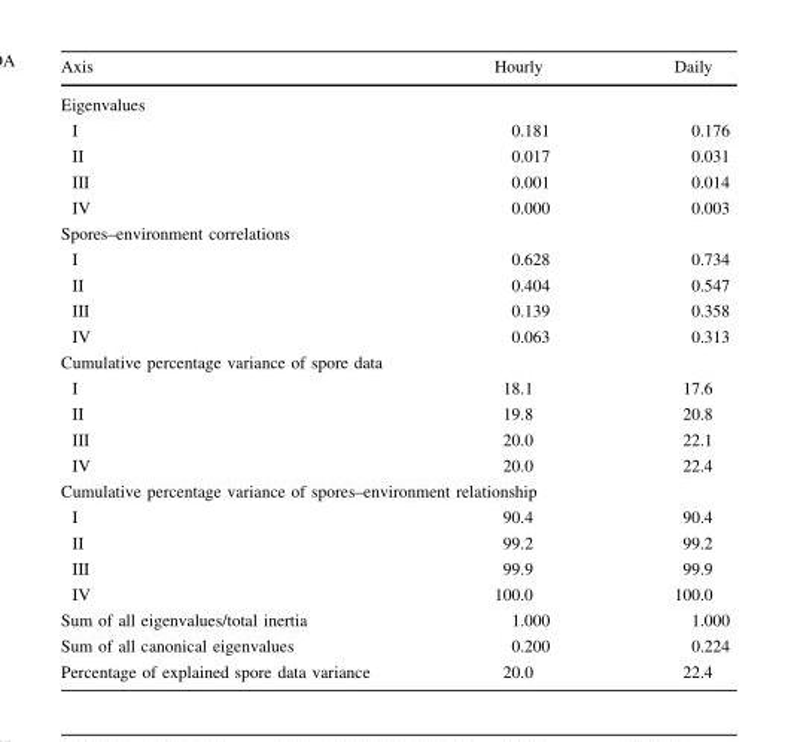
<table><thead><tr><td>Axis</td><td>Hourly</td><td>Daily</td></tr></thead><tbody><tr><td colspan="3">Eigenvalues</td></tr><tr><td>I</td><td>0.181</td><td>0.176</td></tr><tr><td>II</td><td>0.017</td><td>0.031</td></tr><tr><td>III</td><td>0.001</td><td>0.014</td></tr><tr><td>IV</td><td>0.000</td><td>0.003</td></tr><tr><td colspan="3">Spores–environment correlations</td></tr><tr><td>I</td><td>0.628</td><td>0.734</td></tr><tr><td>II</td><td>0.404</td><td>0.547</td></tr><tr><td>III</td><td>0.139</td><td>0.358</td></tr><tr><td>IV</td><td>0.063</td><td>0.313</td></tr><tr><td colspan="3">Cumulative percentage variance of spore data</td></tr><tr><td>I</td><td>18.1</td><td>17.6</td></tr><tr><td>II</td><td>19.8</td><td>20.8</td></tr><tr><td>III</td><td>20.0</td><td>22.1</td></tr><tr><td>IV</td><td>20.0</td><td>22.4</td></tr><tr><td colspan="3">Cumulative percentage variance of spores–environment relationship</td></tr><tr><td>I</td><td>90.4</td><td>90.4</td></tr><tr><td>II</td><td>99.2</td><td>99.2</td></tr><tr><td>III</td><td>99.9</td><td>99.9</td></tr><tr><td>IV</td><td>100.0</td><td>100.0</td></tr><tr><td>Sum of all eigenvalues/total inertia</td><td>1.000</td><td>1.000</td></tr><tr><td>Sum of all canonical eigenvalues</td><td>0.200</td><td>0.224</td></tr><tr><td>Percentage of explained spore data variance</td><td>20.0</td><td>22.4</td></tr></tbody></table>